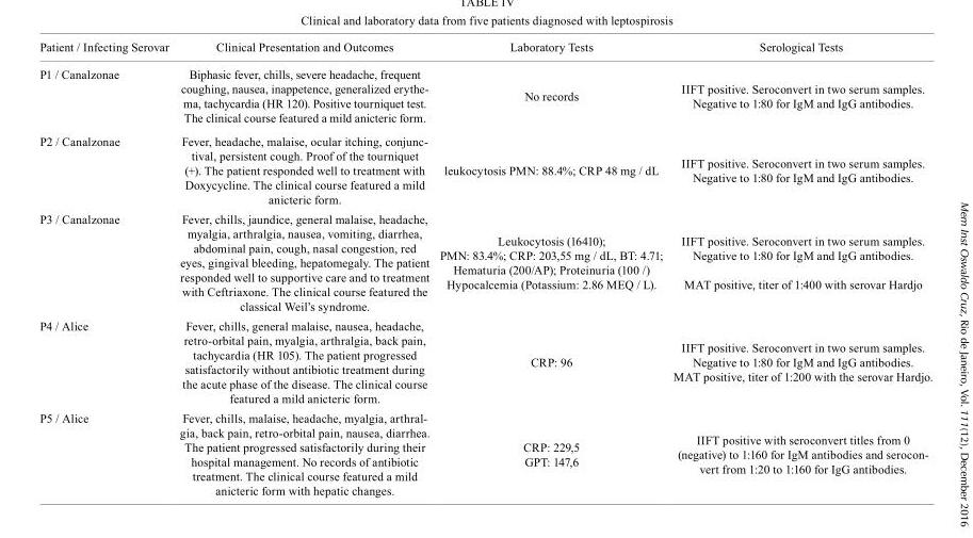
<table><thead><tr><td>Patient / Infecting Serovar</td><td>Clinical Presentation and Outcomes</td><td>Laboratory Tests</td><td>Serological Tests</td></tr></thead><tbody><tr><td>P1 / Canalzonae</td><td>Biphasic fever, chills, severe headache, frequent coughing, nausea, inappetence, generalized erythe- ma, tachycardia (HR 120). Positive tourniquet test. The clinical course featured a mild anicteric form.</td><td>No records</td><td>IIFT positive. Seroconvert in two serum samples. Negative to 1:80 for IgM and IgG antibodies.</td></tr><tr><td>P2 / Canalzonae</td><td>Fever, headache, malaise, ocular itching, conjunc- tival, persistent cough. Proof of the tourniquet (+). The patient responded well to treatment with Doxycycline. The clinical course featured a mild anicteric form.</td><td>leukocytosis PMN: 88.4%; CRP 48 mg / dL</td><td>IIFT positive. Seroconvert in two serum samples. Negative to 1:80 for IgM and IgG antibodies.</td></tr><tr><td>P3 / Canalzonae</td><td>Fever, chills, jaundice, general malaise, headache, myalgia, arthralgia, nausea, vomiting, diarrhea, abdominal pain, cough, nasal congestion, red eyes, gingival bleeding, hepatomegaly. The patient responded well to supportive care and to treatment with Ceftriaxone. The clinical course featured the classical Weil’s syndrome.</td><td>Leukocytosis (16410); PMN: 83.4%; CRP: 203,55 mg / dL, BT: 4.71; Hematuria (200/AP); Proteinuria (100 /) Hypocalcemia (Potassium: 2.86 MEQ / L).</td><td>IIFT positive. Seroconvert in two serum samples. Negative to 1:80 for IgM and IgG antibodies. MAT positive, titer of 1:400 with serovar Hardjo</td></tr><tr><td>P4 / Alice</td><td>Fever, chills, general malaise, nausea, headache, retro-orbital pain, myalgia, arthralgia, back pain, tachycardia (HR 105). The patient progressed satisfactorily without antibiotic treatment during the acute phase of the disease. The clinical course featured a mild anicteric form.</td><td>CRP: 96</td><td>IIFT positive. Seroconvert in two serum samples. Negative to 1:80 for IgM and IgG antibodies. MAT positive, titer of 1:200 with the serovar Hardjo.</td></tr><tr><td>P5 / Alice</td><td>Fever, chills, malaise, headache, myalgia, arthral- gia, back pain, retro-orbital pain, nausea, diarrhea. The patient progressed satisfactorily during their hospital management. No records of antibiotic treatment. The clinical course featured a mild anicteric form with hepatic changes.</td><td>CRP: 229,5 GPT: 147,6</td><td>IIFT positive with seroconvert titles from 0 (negative) to 1:160 for IgM antibodies and serocon- vert from 1:20 to 1:160 for IgG antibodies.</td></tr></tbody></table>